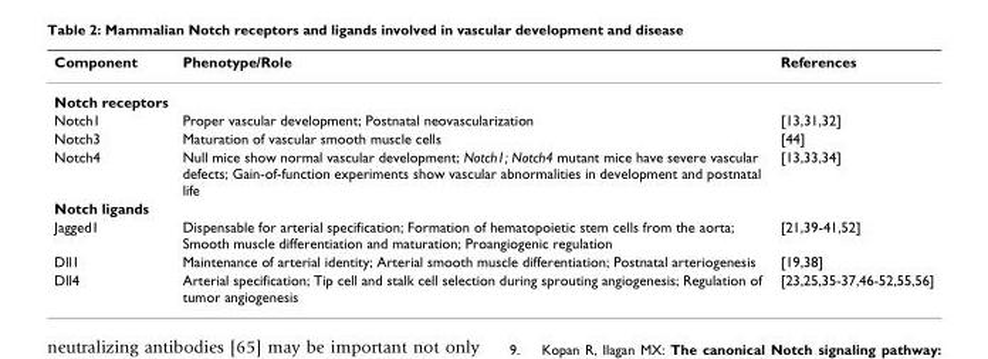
<table><thead><tr><td>Component</td><td>Phenotype/Role</td><td>References</td></tr></thead><tbody><tr><td colspan="3">Notch receptors</td></tr><tr><td>Notch1</td><td>Proper vascular development; Postnatal neovascularization</td><td>[13,31,32]</td></tr><tr><td>Notch3</td><td>Maturation of vascular smooth muscle cells</td><td>[44]</td></tr><tr><td>Notch4</td><td>Null mice show normal vascular development; Notch1; Notch4 mutant mice have severe vascular defects; Gain-of-function experiments show vascular abnormalities in development and postnatal life</td><td>[13,33,34]</td></tr><tr><td colspan="3">Notch ligands</td></tr><tr><td>Jagged1</td><td>Dispensable for arterial specification; Formation of hematopoietic stem cells from the aorta; Smooth muscle differentiation and maturation; Proangiogenic regulation</td><td>[21,39-41,52]</td></tr><tr><td>Dll1</td><td>Maintenance of arterial identity; Arterial smooth muscle differentiation; Postnatal arteriogenesis</td><td>[19,38]</td></tr><tr><td>Dll4</td><td>Arterial specification; Tip cell and stalk cell selection during sprouting angiogenesis; Regulation of tumor angiogenesis</td><td>[23,25,35-37,46-52,55,56]</td></tr></tbody></table>